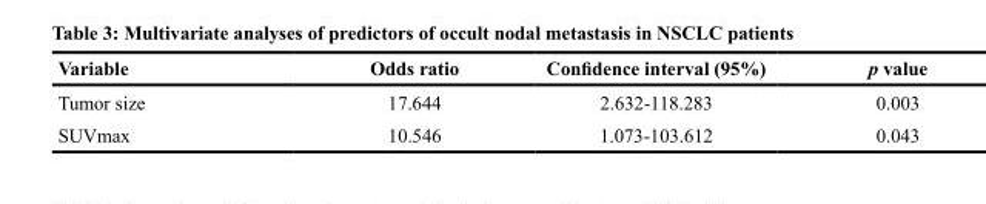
<table><thead><tr><td>Variable</td><td>Odds ratio</td><td>Confidence interval (95%)</td><td>p value</td></tr></thead><tbody><tr><td>Tumor size</td><td>17.644</td><td>2.632-118.283</td><td>0.003</td></tr><tr><td>SUVmax</td><td>10.546</td><td>1.073-103.612</td><td>0.043</td></tr></tbody></table>